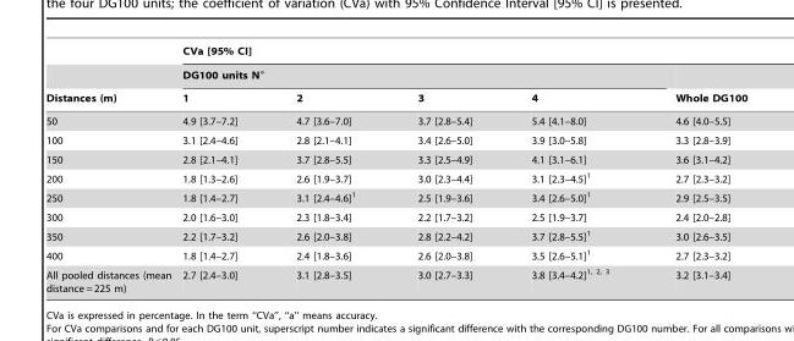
<table><thead><tr><td rowspan="3">Distances (m)</td><td colspan="5">CVa [95% CI]</td></tr><tr><td colspan="4">DG100 units N°</td><td rowspan="2">Whole DG100</td></tr><tr><td>1</td><td>2</td><td>3</td><td>4</td></tr></thead><tbody><tr><td>50</td><td>4.9 [3.7–7.2]</td><td>4.7 [3.6–7.0]</td><td>3.7 [2.8–5.4]</td><td>5.4 [4.1–8.0]</td><td>4.6 [4.0–5.5]</td></tr><tr><td>100</td><td>3.1 [2.4–4.6]</td><td>2.8 [2.1–4.1]</td><td>3.4 [2.6–5.0]</td><td>3.9 [3.0–5.8]</td><td>3.3 [2.8–3.9]</td></tr><tr><td>150</td><td>2.8 [2.1–4.1]</td><td>3.7 [2.8–5.5]</td><td>3.3 [2.5–4.9]</td><td>4.1 [3.1–6.1]</td><td>3.6 [3.1–4.2]</td></tr><tr><td>200</td><td>1.8 [1.3–2.6]</td><td>2.6 [1.9–3.7]</td><td>3.0 [2.3–4.4]</td><td>3.1 [2.3–4.5]<sup>1</sup></td><td>2.7 [2.3–3.2]</td></tr><tr><td>250</td><td>1.8 [1.4–2.7]</td><td>3.1 [2.4–4.6]<sup>1</sup></td><td>2.5 [1.9–3.6]</td><td>3.4 [2.6–5.0]<sup>1</sup></td><td>2.9 [2.5–3.5]</td></tr><tr><td>300</td><td>2.0 [1.6–3.0]</td><td>2.3 [1.8–3.4]</td><td>2.2 [1.7–3.2]</td><td>2.5 [1.9–3.7]</td><td>2.4 [2.0–2.8]</td></tr><tr><td>350</td><td>2.2 [1.7–3.2]</td><td>2.6 [2.0–3.8]</td><td>2.8 [2.2–4.2]</td><td>3.7 [2.8–5.5]<sup>1</sup></td><td>3.0 [2.6–3.5]</td></tr><tr><td>400</td><td>1.8 [1.4–2.7]</td><td>2.4 [1.8–3.6]</td><td>2.6 [2.0–3.8]</td><td>3.5 [2.6–5.1]<sup>1</sup></td><td>2.7 [2.3–3.2]</td></tr><tr><td>All pooled distances (mean distance = 225 m)</td><td>2.7 [2.4–3.0]</td><td>3.1 [2.8–3.5]</td><td>3.0 [2.7–3.3]</td><td>3.8 [3.4–4.2]<sup>1, 2, 3</sup></td><td>3.2 [3.1–3.4]</td></tr></tbody></table>